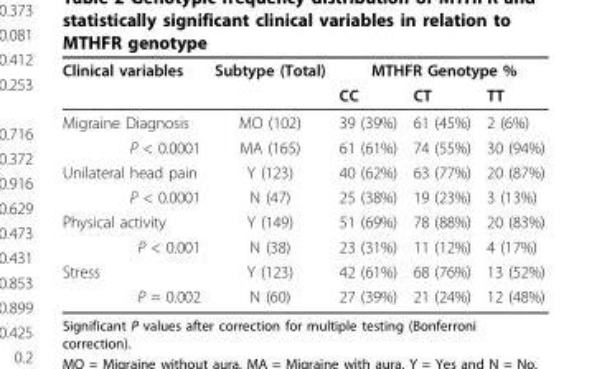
<table><thead><tr><td rowspan="2">Clinical variables</td><td rowspan="2">Subtype (Total)</td><td colspan="3">MTHFR Genotype %</td></tr><tr><td>CC</td><td>CT</td><td>TT</td></tr></thead><tbody><tr><td>Migraine Diagnosis</td><td>MO (102)</td><td>39 (39%)</td><td>61 (45%)</td><td>2 (6%)</td></tr><tr><td>P &lt; 0.0001</td><td>MA (165)</td><td>61 (61%)</td><td>74 (55%)</td><td>30 (94%)</td></tr><tr><td>Unilateral head pain</td><td>Y (123)</td><td>40 (62%)</td><td>63 (77%)</td><td>20 (87%)</td></tr><tr><td>P &lt; 0.0001</td><td>N (47)</td><td>25 (38%)</td><td>19 (23%)</td><td>3 (13%)</td></tr><tr><td>Physical activity</td><td>Y (149)</td><td>51 (69%)</td><td>78 (88%)</td><td>20 (83%)</td></tr><tr><td>P &lt; 0.001</td><td>N (38)</td><td>23 (31%)</td><td>11 (12%)</td><td>4 (17%)</td></tr><tr><td>Stress</td><td>Y (123)</td><td>42 (61%)</td><td>68 (76%)</td><td>13 (52%)</td></tr><tr><td>P = 0.002</td><td>N (60)</td><td>27 (39%)</td><td>21 (24%)</td><td>12 (48%)</td></tr></tbody></table>